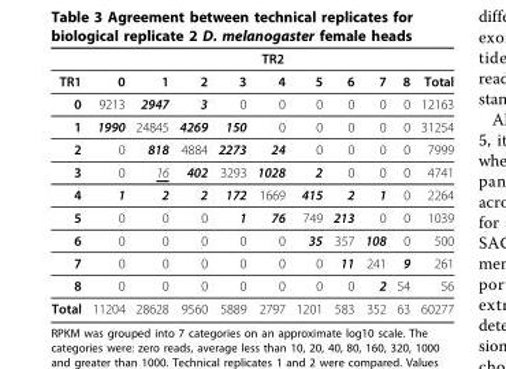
<table><thead><tr><td rowspan="2">TR1</td><td colspan="10">TR2</td></tr><tr><td>0</td><td>1</td><td>2</td><td>3</td><td>4</td><td>5</td><td>6</td><td>7</td><td>8</td><td>Total</td></tr></thead><tbody><tr><td>0</td><td>9213</td><td>2947</td><td>3</td><td>0</td><td>0</td><td>0</td><td>0</td><td>0</td><td>0</td><td>12163</td></tr><tr><td>1</td><td>1990</td><td>24845</td><td>4269</td><td>150</td><td>0</td><td>0</td><td>0</td><td>0</td><td>0</td><td>31254</td></tr><tr><td>2</td><td>0</td><td>818</td><td>4884</td><td>2273</td><td>24</td><td>0</td><td>0</td><td>0</td><td>0</td><td>7999</td></tr><tr><td>3</td><td>0</td><td>16</td><td>402</td><td>3293</td><td>1028</td><td>2</td><td>0</td><td>0</td><td>0</td><td>4741</td></tr><tr><td>4</td><td>1</td><td>2</td><td>2</td><td>172</td><td>1669</td><td>415</td><td>2</td><td>1</td><td>0</td><td>2264</td></tr><tr><td>5</td><td>0</td><td>0</td><td>0</td><td>1</td><td>76</td><td>749</td><td>213</td><td>0</td><td>0</td><td>1039</td></tr><tr><td>6</td><td>0</td><td>0</td><td>0</td><td>0</td><td>0</td><td>35</td><td>357</td><td>108</td><td>0</td><td>500</td></tr><tr><td>7</td><td>0</td><td>0</td><td>0</td><td>0</td><td>0</td><td>0</td><td>11</td><td>241</td><td>9</td><td>261</td></tr><tr><td>8</td><td>0</td><td>0</td><td>0</td><td>0</td><td>0</td><td>0</td><td>0</td><td>2</td><td>54</td><td>56</td></tr><tr><td>Total</td><td>11204</td><td>28628</td><td>9560</td><td>5889</td><td>2797</td><td>1201</td><td>583</td><td>352</td><td>63</td><td>60277</td></tr></tbody></table>